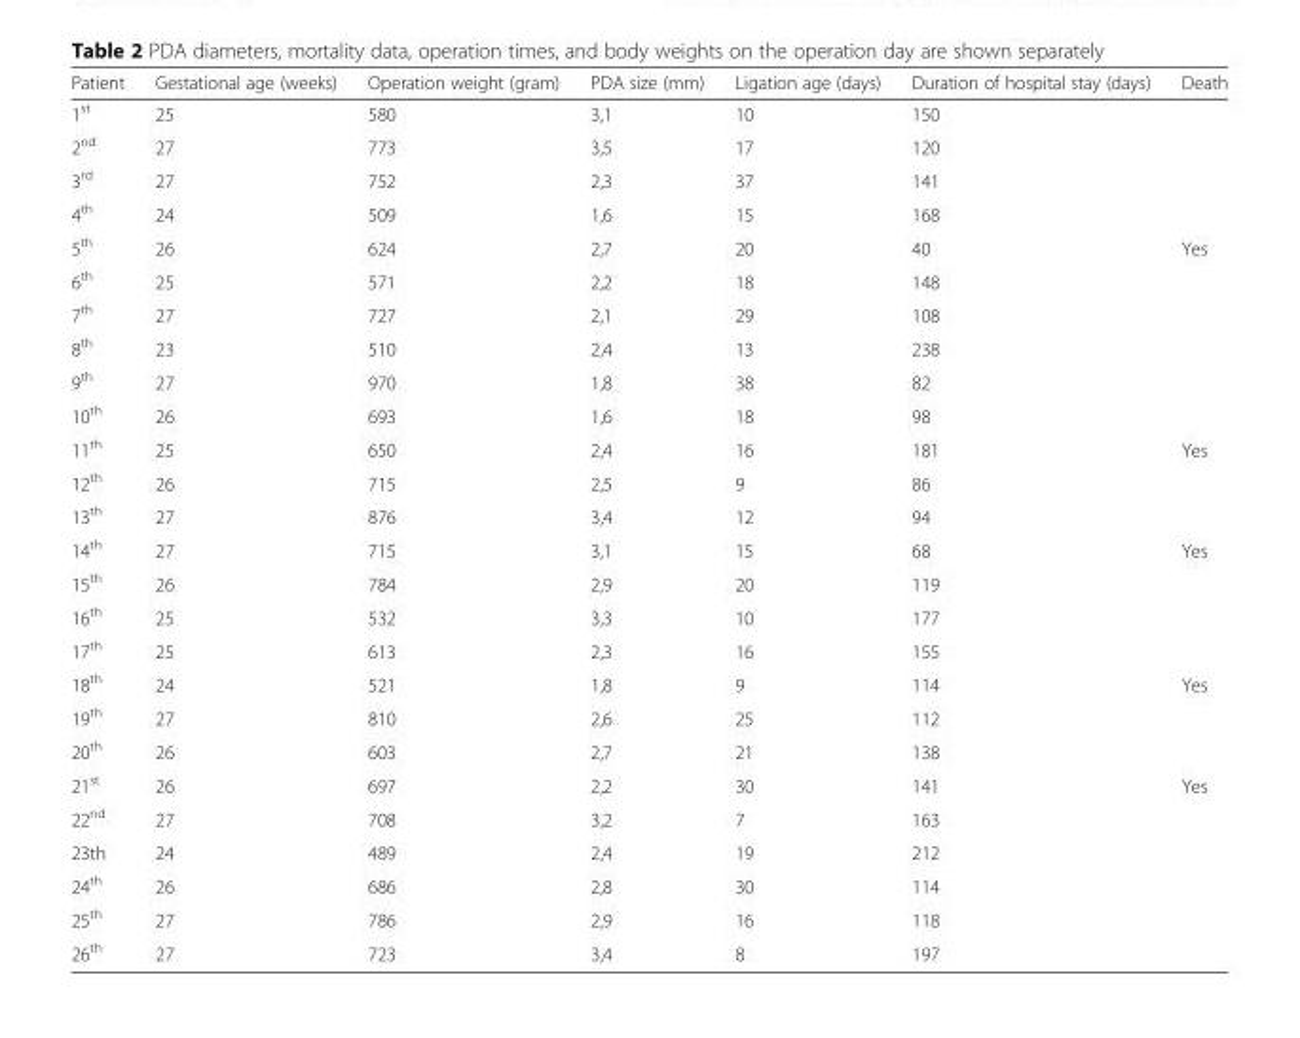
<table><thead><tr><td>Patient</td><td>Gestational age (weeks)</td><td>Operation weight (gram)</td><td>PDA size (mm)</td><td>Ligation age (days)</td><td>Duration of hospital stay (days)</td><td>Death</td></tr></thead><tbody><tr><td>1<sup>st</sup></td><td>25</td><td>580</td><td>3,1</td><td>10</td><td>150</td><td rowspan="4"></td></tr><tr><td>2<sup>nd</sup></td><td>27</td><td>773</td><td>3,5</td><td>17</td><td>120</td></tr><tr><td>3<sup>rd</sup></td><td>27</td><td>752</td><td>2,3</td><td>37</td><td>141</td></tr><tr><td>4<sup>th</sup></td><td>24</td><td>509</td><td>1,6</td><td>15</td><td>168</td></tr><tr><td>5<sup>th</sup></td><td>26</td><td>624</td><td>2,7</td><td>20</td><td>40</td><td>Yes</td></tr><tr><td>6<sup>th</sup></td><td>25</td><td>571</td><td>2,2</td><td>18</td><td>148</td><td rowspan="5"></td></tr><tr><td>7<sup>th</sup></td><td>27</td><td>727</td><td>2,1</td><td>29</td><td>108</td></tr><tr><td>8<sup>th</sup></td><td>23</td><td>510</td><td>2,4</td><td>13</td><td>238</td></tr><tr><td>9<sup>th</sup></td><td>27</td><td>970</td><td>1,8</td><td>38</td><td>82</td></tr><tr><td>10<sup>th</sup></td><td>26</td><td>693</td><td>1,6</td><td>18</td><td>98</td></tr><tr><td>11<sup>th</sup></td><td>25</td><td>650</td><td>2,4</td><td>16</td><td>181</td><td>Yes</td></tr><tr><td>12<sup>th</sup></td><td>26</td><td>715</td><td>2,5</td><td>9</td><td>86</td><td rowspan="2"></td></tr><tr><td>13<sup>th</sup></td><td>27</td><td>876</td><td>3,4</td><td>12</td><td>94</td></tr><tr><td>14<sup>th</sup></td><td>27</td><td>715</td><td>3,1</td><td>15</td><td>68</td><td>Yes</td></tr><tr><td>15<sup>th</sup></td><td>26</td><td>784</td><td>2,9</td><td>20</td><td>119</td><td rowspan="3"></td></tr><tr><td>16<sup>th</sup></td><td>25</td><td>532</td><td>3,3</td><td>10</td><td>177</td></tr><tr><td>17<sup>th</sup></td><td>25</td><td>613</td><td>2,3</td><td>16</td><td>155</td></tr><tr><td>18<sup>th</sup></td><td>24</td><td>521</td><td>1,8</td><td>9</td><td>114</td><td>Yes</td></tr><tr><td>19<sup>th</sup></td><td>27</td><td>810</td><td>2,6</td><td>25</td><td>112</td><td rowspan="2"></td></tr><tr><td>20<sup>th</sup></td><td>26</td><td>603</td><td>2,7</td><td>21</td><td>138</td></tr><tr><td>21<sup>st</sup></td><td>26</td><td>697</td><td>2,2</td><td>30</td><td>141</td><td>Yes</td></tr><tr><td>22<sup>nd</sup></td><td>27</td><td>708</td><td>3,2</td><td>7</td><td>163</td><td rowspan="5"></td></tr><tr><td>23th</td><td>24</td><td>489</td><td>2,4</td><td>19</td><td>212</td></tr><tr><td>24<sup>th</sup></td><td>26</td><td>686</td><td>2,8</td><td>30</td><td>114</td></tr><tr><td>25<sup>th</sup></td><td>27</td><td>786</td><td>2,9</td><td>16</td><td>118</td></tr><tr><td>26<sup>th</sup></td><td>27</td><td>723</td><td>3,4</td><td>8</td><td>197</td></tr></tbody></table>